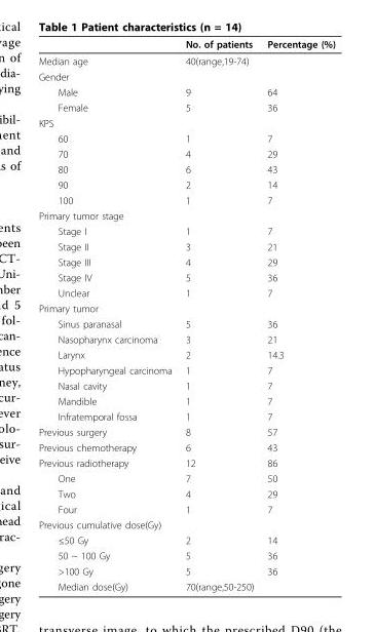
<table><thead><tr><td></td><td>No. of patients</td><td>Percentage (%)</td></tr></thead><tbody><tr><td>Median age</td><td>40(range,19-74)</td><td></td></tr><tr><td colspan="3">Gender</td></tr><tr><td>Male</td><td>9</td><td>64</td></tr><tr><td>Female</td><td>5</td><td>36</td></tr><tr><td colspan="3">KPS</td></tr><tr><td>60</td><td>1</td><td>7</td></tr><tr><td>70</td><td>4</td><td>29</td></tr><tr><td>80</td><td>6</td><td>43</td></tr><tr><td>90</td><td>2</td><td>14</td></tr><tr><td>100</td><td>1</td><td>7</td></tr><tr><td colspan="3">Primary tumor stage</td></tr><tr><td>Stage I</td><td>1</td><td>7</td></tr><tr><td>Stage II</td><td>3</td><td>21</td></tr><tr><td>Stage III</td><td>4</td><td>29</td></tr><tr><td>Stage IV</td><td>5</td><td>36</td></tr><tr><td>Unclear</td><td>1</td><td>7</td></tr><tr><td colspan="3">Primary tumor</td></tr><tr><td>Sinus paranasal</td><td>5</td><td>36</td></tr><tr><td>Nasopharynx carcinoma</td><td>3</td><td>21</td></tr><tr><td>Larynx</td><td>2</td><td>14.3</td></tr><tr><td>Hypopharyngeal carcinoma</td><td>1</td><td>7</td></tr><tr><td>Nasal cavity</td><td>1</td><td>7</td></tr><tr><td>Mandible</td><td>1</td><td>7</td></tr><tr><td>Infratemporal fossa</td><td>1</td><td>7</td></tr><tr><td>Previous surgery</td><td>8</td><td>57</td></tr><tr><td>Previous chemotherapy</td><td>6</td><td>43</td></tr><tr><td>Previous radiotherapy</td><td>12</td><td>86</td></tr><tr><td>One</td><td>7</td><td>50</td></tr><tr><td>Two</td><td>4</td><td>29</td></tr><tr><td>Four</td><td>1</td><td>7</td></tr><tr><td colspan="3">Previous cumulative dose(Gy)</td></tr><tr><td>≤50 Gy</td><td>2</td><td>14</td></tr><tr><td>50 ~ 100 Gy</td><td>5</td><td>36</td></tr><tr><td>&gt;100 Gy</td><td>5</td><td>36</td></tr><tr><td>Median dose(Gy)</td><td>70(range,50-250)</td><td></td></tr></tbody></table>